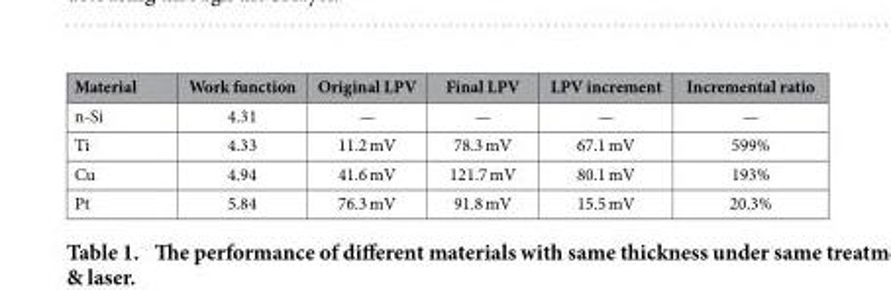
<table><thead><tr><td>Material</td><td>Work function</td><td>Original LPV</td><td>Final LPV</td><td>LPV increment</td><td>Incremental ratio</td></tr></thead><tbody><tr><td>n-Si</td><td>4.31</td><td>—</td><td>—</td><td>—</td><td>—</td></tr><tr><td>Ti</td><td>4.33</td><td>11.2 mV</td><td>78.3 mV</td><td>67.1 mV</td><td>599%</td></tr><tr><td>Cu</td><td>4.94</td><td>41.6 mV</td><td>121.7 mV</td><td>80.1 mV</td><td>193%</td></tr><tr><td>Pt</td><td>5.84</td><td>76.3 mV</td><td>91.8 mV</td><td>15.5 mV</td><td>20.3%</td></tr></tbody></table>